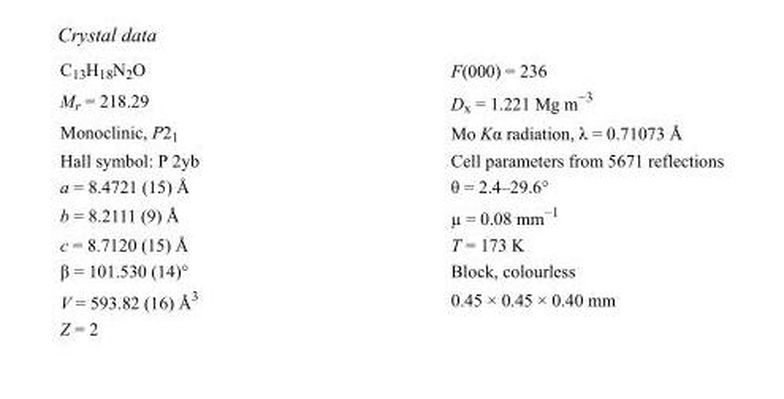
<table><tbody><tr><td>C<sub>13</sub>H<sub>18</sub>N<sub>2</sub>O</td><td>F(000) = 236</td></tr><tr><td>M<sub>r</sub> = 218.29</td><td>D<sub>x</sub> = 1.221 Mg m<sup>−3</sup></td></tr><tr><td>Monoclinic, P2<sub>1</sub></td><td>Mo Kα radiation, λ = 0.71073 Å</td></tr><tr><td>Hall symbol: P 2yb</td><td>Cell parameters from 5671 reflections</td></tr><tr><td>a = 8.4721 (15) Å</td><td>θ = 2.4–29.6°</td></tr><tr><td>b = 8.2111 (9) Å</td><td>µ = 0.08 mm<sup>−1</sup></td></tr><tr><td>c = 8.7120 (15) Å</td><td>T = 173 K</td></tr><tr><td>β = 101.530 (14)°</td><td>Block, colourless</td></tr><tr><td>V = 593.82 (16) Å<sup>3</sup></td><td>0.45 × 0.45 × 0.40 mm</td></tr><tr><td>Z = 2</td><td></td></tr></tbody></table>